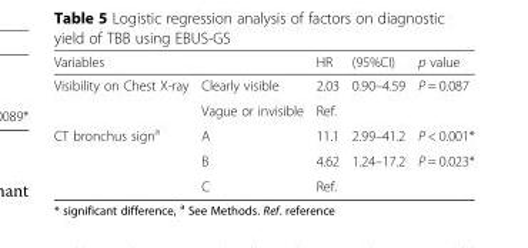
<table><thead><tr><td>Variables</td><td></td><td>HR</td><td>(95%CI)</td><td>p value</td></tr></thead><tbody><tr><td rowspan="2">Visibility on Chest X-ray</td><td>Clearly visible</td><td>2.03</td><td>0.90–4.59</td><td>P = 0.087</td></tr><tr><td>Vague or invisible</td><td>Ref.</td><td></td><td></td></tr><tr><td rowspan="3">CT bronchus sign<sup>a</sup></td><td>A</td><td>11.1</td><td>2.99–41.2</td><td>P &lt; 0.001*</td></tr><tr><td>B</td><td>4.62</td><td>1.24–17.2</td><td>P = 0.023*</td></tr><tr><td>C</td><td>Ref.</td><td></td><td></td></tr></tbody></table>